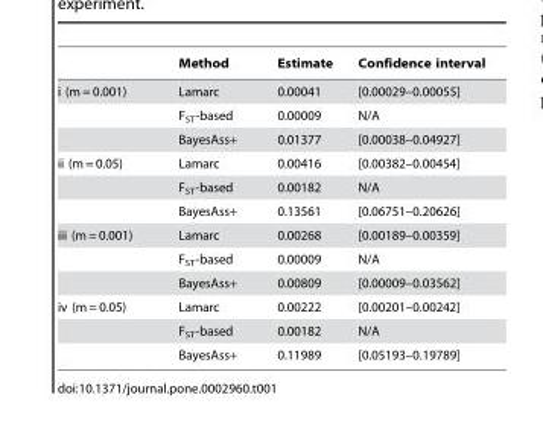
<table><thead><tr><td></td><td>Method</td><td>Estimate</td><td>Confidence interval</td></tr></thead><tbody><tr><td rowspan="3">i (m = 0.001)</td><td>Lamarc</td><td>0.00041</td><td>[0.00029–0.00055]</td></tr><tr><td>F<sub>ST</sub>-based</td><td>0.00009</td><td>N/A</td></tr><tr><td>BayesAss+</td><td>0.01377</td><td>[0.00038–0.04927]</td></tr><tr><td rowspan="3">ii (m = 0.05)</td><td>Lamarc</td><td>0.00416</td><td>[0.00382–0.00454]</td></tr><tr><td>F<sub>ST</sub>-based</td><td>0.00182</td><td>N/A</td></tr><tr><td>BayesAss+</td><td>0.13561</td><td>[0.06751–0.20626]</td></tr><tr><td rowspan="3">iii (m = 0.001)</td><td>Lamarc</td><td>0.00268</td><td>[0.00189–0.00359]</td></tr><tr><td>F<sub>ST</sub>-based</td><td>0.00009</td><td>N/A</td></tr><tr><td>BayesAss+</td><td>0.00809</td><td>[0.00009–0.03562]</td></tr><tr><td rowspan="3">iv (m = 0.05)</td><td>Lamarc</td><td>0.00222</td><td>[0.00201–0.00242]</td></tr><tr><td>F<sub>ST</sub>-based</td><td>0.00182</td><td>N/A</td></tr><tr><td>BayesAss+</td><td>0.11989</td><td>[0.05193–0.19789]</td></tr></tbody></table>